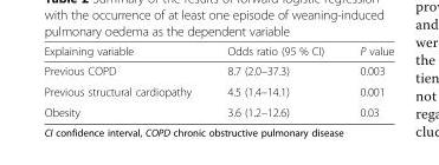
<table><thead><tr><td>Explaining variable</td><td>Odds ratio (95 % CI)</td><td>P value</td></tr></thead><tbody><tr><td>Previous COPD</td><td>8.7 (2.0–37.3)</td><td>0.003</td></tr><tr><td>Previous structural cardiopathy</td><td>4.5 (1.4–14.1)</td><td>0.001</td></tr><tr><td>Obesity</td><td>3.6 (1.2–12.6)</td><td>0.03</td></tr></tbody></table>